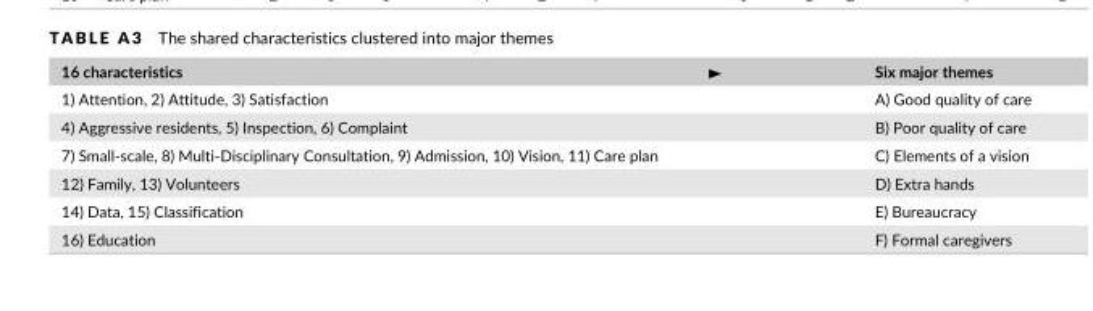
<table><thead><tr><td>16 characteristics</td><td>►</td><td>Six major themes</td></tr></thead><tbody><tr><td>1) Attention, 2) Attitude, 3) Satisfaction</td><td></td><td>A) Good quality of care</td></tr><tr><td>4) Aggressive residents, 5) Inspection, 6) Complaint</td><td></td><td>B) Poor quality of care</td></tr><tr><td>7) Small- scale, 8) Multi- Disciplinary Consultation, 9) Admission, 10) Vision, 11) Care plan</td><td></td><td>C) Elements of a vision</td></tr><tr><td>12) Family, 13) Volunteers</td><td></td><td>D) Extra hands</td></tr><tr><td>14) Data, 15) Classification</td><td></td><td>E) Bureaucracy</td></tr><tr><td>16) Education</td><td></td><td>F) Formal caregivers</td></tr></tbody></table>